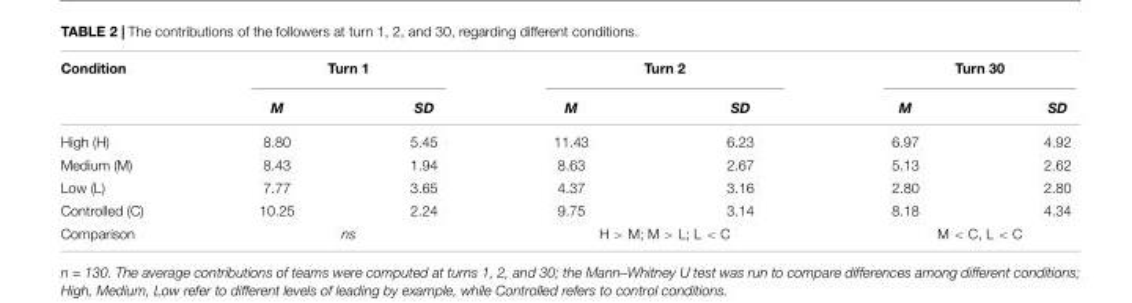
<table><thead><tr><td rowspan="2">Condition</td><td colspan="2">Turn 1</td><td colspan="2">Turn 2</td><td colspan="2">Turn 30</td></tr><tr><td>M</td><td>SD</td><td>M</td><td>SD</td><td>M</td><td>SD</td></tr></thead><tbody><tr><td>High (H)</td><td>8.80</td><td>5.45</td><td>11.43</td><td>6.23</td><td>6.97</td><td>4.92</td></tr><tr><td>Medium (M)</td><td>8.43</td><td>1.94</td><td>8.63</td><td>2.67</td><td>5.13</td><td>2.62</td></tr><tr><td>Low (L)</td><td>7.77</td><td>3.65</td><td>4.37</td><td>3.16</td><td>2.80</td><td>2.80</td></tr><tr><td>Controlled (C)</td><td>10.25</td><td>2.24</td><td>9.75</td><td>3.14</td><td>8.18</td><td>4.34</td></tr><tr><td>Comparison</td><td colspan="2">ns</td><td colspan="2">H &gt; M; M &gt; L; L &lt; C</td><td colspan="2">M &lt; C, L &lt; C</td></tr></tbody></table>